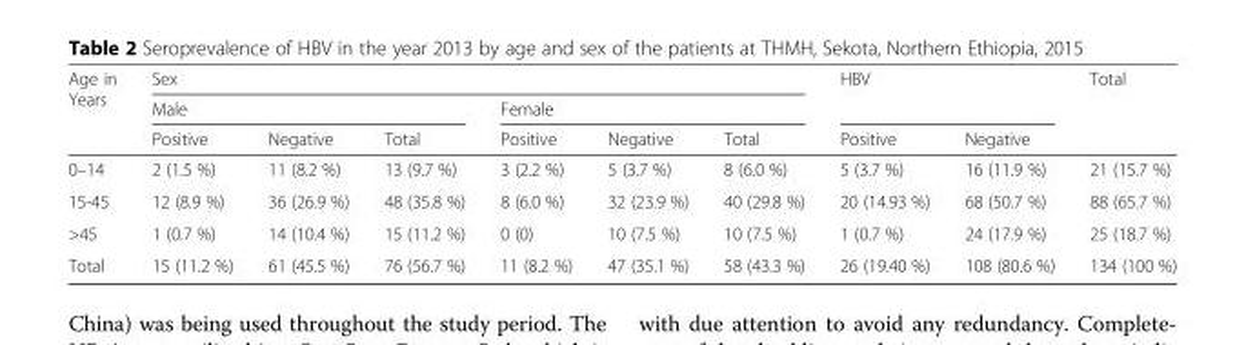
<table><thead><tr><td rowspan="3">Age in Years</td><td colspan="6">Sex</td><td rowspan="2" colspan="2">HBV</td><td rowspan="3">Total</td></tr><tr><td colspan="3">Male</td><td colspan="3">Female</td></tr><tr><td>Positive</td><td>Negative</td><td>Total</td><td>Positive</td><td>Negative</td><td>Total</td><td>Positive</td><td>Negative</td></tr></thead><tbody><tr><td>0–14</td><td>2 (1.5 %)</td><td>11 (8.2 %)</td><td>13 (9.7 %)</td><td>3 (2.2 %)</td><td>5 (3.7 %)</td><td>8 (6.0 %)</td><td>5 (3.7 %)</td><td>16 (11.9 %)</td><td>21 (15.7 %)</td></tr><tr><td>15-45</td><td>12 (8.9 %)</td><td>36 (26.9 %)</td><td>48 (35.8 %)</td><td>8 (6.0 %)</td><td>32 (23.9 %)</td><td>40 (29.8 %)</td><td>20 (14.93 %)</td><td>68 (50.7 %)</td><td>88 (65.7 %)</td></tr><tr><td>&gt;45</td><td>1 (0.7 %)</td><td>14 (10.4 %)</td><td>15 (11.2 %)</td><td>0 (0)</td><td>10 (7.5 %)</td><td>10 (7.5 %)</td><td>1 (0.7 %)</td><td>24 (17.9 %)</td><td>25 (18.7 %)</td></tr><tr><td>Total</td><td>15 (11.2 %)</td><td>61 (45.5 %)</td><td>76 (56.7 %)</td><td>11 (8.2 %)</td><td>47 (35.1 %)</td><td>58 (43.3 %)</td><td>26 (19.40 %)</td><td>108 (80.6 %)</td><td>134 (100 %)</td></tr></tbody></table>